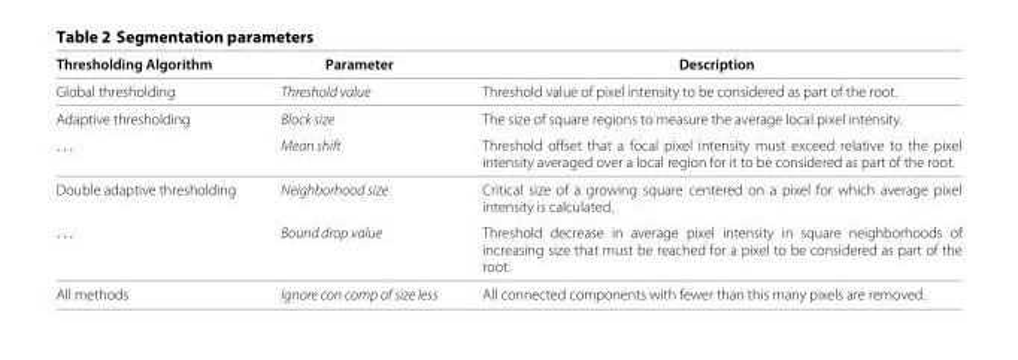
<table><thead><tr><td>Thresholding Algorithm</td><td>Parameter</td><td>Description</td></tr></thead><tbody><tr><td>Global thresholding</td><td>Threshold value</td><td>Threshold value of pixel intensity to be considered as part of the root.</td></tr><tr><td>Adaptive thresholding</td><td>Block size</td><td>The size of square regions to measure the average local pixel intensity.</td></tr><tr><td>. . .</td><td>Mean shift</td><td>Threshold offset that a focal pixel intensity must exceed relative to the pixel intensity averaged over a local region for it to be considered as part of the root.</td></tr><tr><td>Double adaptive thresholding</td><td>Neighborhood size</td><td>Critical size of a growing square centered on a pixel for which average pixel intensity is calculated.</td></tr><tr><td>. . .</td><td>Bound drop value</td><td>Threshold decrease in average pixel intensity in square neighborhoods of increasing size that must be reached for a pixel to be considered as part of the root.</td></tr><tr><td>All methods</td><td>Ignore con comp of size less</td><td>All connected components with fewer than this many pixels are removed.</td></tr></tbody></table>